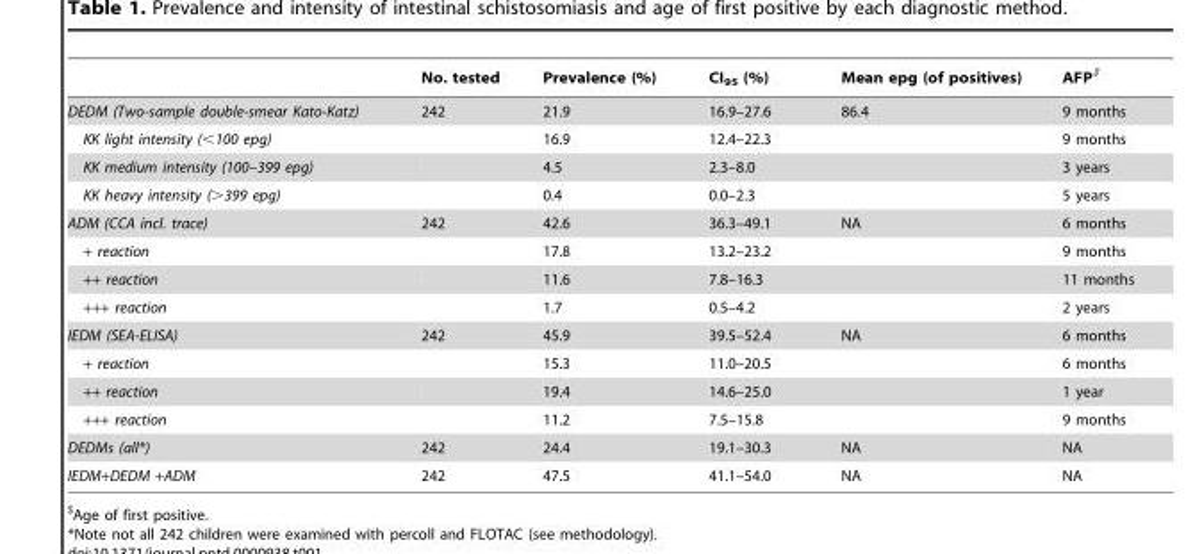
<table><thead><tr><td></td><td>No. tested</td><td>Prevalence (%)</td><td>CI<sub>95</sub> (%)</td><td>Mean epg (of positives)</td><td>AFP$</td></tr></thead><tbody><tr><td>DEDM (Two-sample double-smear Kato-Katz)</td><td>242</td><td>21.9</td><td>16.9–27.6</td><td>86.4</td><td>9 months</td></tr><tr><td>KK light intensity (&lt;100 epg)</td><td></td><td>16.9</td><td>12.4–22.3</td><td></td><td>9 months</td></tr><tr><td>KK medium intensity (100–399 epg)</td><td></td><td>4.5</td><td>2.3–8.0</td><td></td><td>3 years</td></tr><tr><td>KK heavy intensity (&gt;399 epg)</td><td></td><td>0.4</td><td>0.0–2.3</td><td></td><td>5 years</td></tr><tr><td>ADM (CCA incl. trace)</td><td>242</td><td>42.6</td><td>36.3–49.1</td><td>NA</td><td>6 months</td></tr><tr><td>+ reaction</td><td></td><td>17.8</td><td>13.2–23.2</td><td></td><td>9 months</td></tr><tr><td>++ reaction</td><td></td><td>11.6</td><td>7.8–16.3</td><td></td><td>11 months</td></tr><tr><td>+++ reaction</td><td></td><td>1.7</td><td>0.5–4.2</td><td></td><td>2 years</td></tr><tr><td>IEDM (SEA-ELISA)</td><td>242</td><td>45.9</td><td>39.5–52.4</td><td>NA</td><td>6 months</td></tr><tr><td>+ reaction</td><td></td><td>15.3</td><td>11.0–20.5</td><td></td><td>6 months</td></tr><tr><td>++ reaction</td><td></td><td>19.4</td><td>14.6–25.0</td><td></td><td>1 year</td></tr><tr><td>+++ reaction</td><td></td><td>11.2</td><td>7.5–15.8</td><td></td><td>9 months</td></tr><tr><td>DEDMs (all*)</td><td>242</td><td>24.4</td><td>19.1–30.3</td><td>NA</td><td>NA</td></tr><tr><td>IEDM+DEDM +ADM</td><td>242</td><td>47.5</td><td>41.1–54.0</td><td>NA</td><td>NA</td></tr></tbody></table>